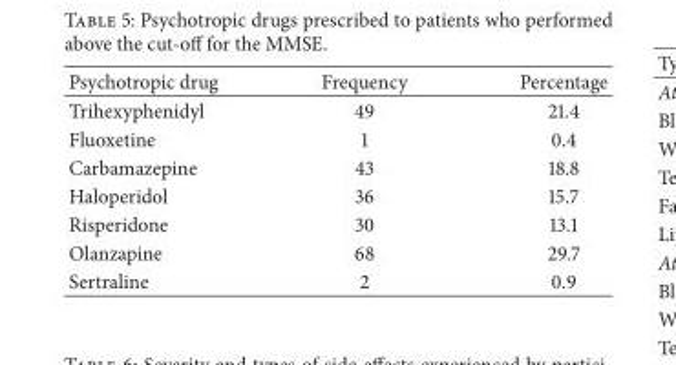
<table><thead><tr><td>Psychotropic drug</td><td>Frequency</td><td>Percentage</td></tr></thead><tbody><tr><td>Trihexyphenidyl</td><td>49</td><td>21.4</td></tr><tr><td>Fluoxetine</td><td>1</td><td>0.4</td></tr><tr><td>Carbamazepine</td><td>43</td><td>18.8</td></tr><tr><td>Haloperidol</td><td>36</td><td>15.7</td></tr><tr><td>Risperidone</td><td>30</td><td>13.1</td></tr><tr><td>Olanzapine</td><td>68</td><td>29.7</td></tr><tr><td>Sertraline</td><td>2</td><td>0.9</td></tr></tbody></table>